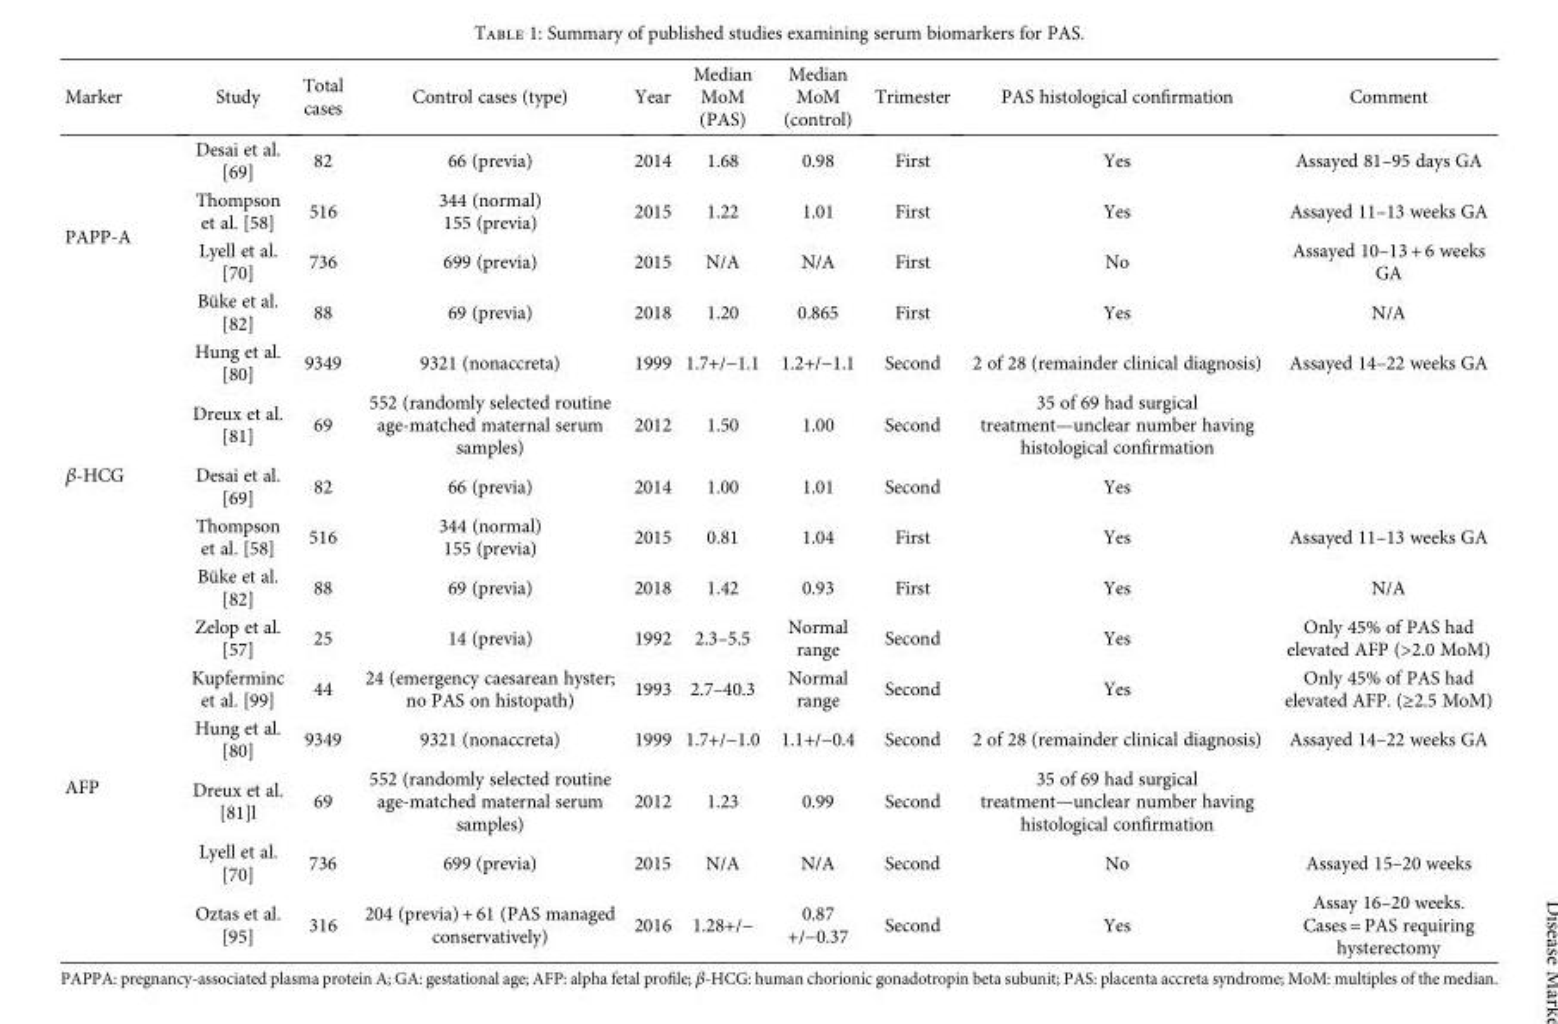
<table><thead><tr><td>Marker</td><td>Study</td><td>Total cases</td><td>Control cases (type)</td><td>Year</td><td>Median MoM (PAS)</td><td>Median MoM (control)</td><td>Trimester</td><td>PAS histological confirmation</td><td>Comment</td></tr></thead><tbody><tr><td rowspan="4">PAPP-A</td><td>Desai et al. [69]</td><td>82</td><td>66 (previa)</td><td>2014</td><td>1.68</td><td>0.98</td><td>First</td><td>Yes</td><td>Assayed 81–95 days GA</td></tr><tr><td>Thompson et al. [58]</td><td>516</td><td>344 (normal) 155 (previa)</td><td>2015</td><td>1.22</td><td>1.01</td><td>First</td><td>Yes</td><td>Assayed 11–13 weeks GA</td></tr><tr><td>Lyell et al. [70]</td><td>736</td><td>699 (previa)</td><td>2015</td><td>N/A</td><td>N/A</td><td>First</td><td>No</td><td>Assayed 10–13 + 6 weeks GA</td></tr><tr><td>Büke et al. [82]</td><td>88</td><td>69 (previa)</td><td>2018</td><td>1.20</td><td>0.865</td><td>First</td><td>Yes</td><td>N/A</td></tr><tr><td rowspan="5">β-HCG</td><td>Hung et al. [80]</td><td>9349</td><td>9321 (nonaccreta)</td><td>1999</td><td>1.7+/−1.1</td><td>1.2+/−1.1</td><td>Second</td><td>2 of 28 (remainder clinical diagnosis)</td><td>Assayed 14–22 weeks GA</td></tr><tr><td>Dreux et al. [81]</td><td>69</td><td>552 (randomly selected routine age-matched maternal serum samples)</td><td>2012</td><td>1.50</td><td>1.00</td><td>Second</td><td>35 of 69 had surgical treatment—unclear number having histological confirmation</td><td></td></tr><tr><td>Desai et al. [69]</td><td>82</td><td>66 (previa)</td><td>2014</td><td>1.00</td><td>1.01</td><td>Second</td><td>Yes</td><td></td></tr><tr><td>Thompson et al. [58]</td><td>516</td><td>344 (normal) 155 (previa)</td><td>2015</td><td>0.81</td><td>1.04</td><td>First</td><td>Yes</td><td>Assayed 11–13 weeks GA</td></tr><tr><td>Büke et al. [82]</td><td>88</td><td>69 (previa)</td><td>2018</td><td>1.42</td><td>0.93</td><td>First</td><td>Yes</td><td>N/A</td></tr><tr><td rowspan="6">AFP</td><td>Zelop et al. [57]</td><td>25</td><td>14 (previa)</td><td>1992</td><td>2.3–5.5</td><td>Normal range</td><td>Second</td><td>Yes</td><td>Only 45% of PAS had elevated AFP (&gt;2.0 MoM)</td></tr><tr><td>Kupferminc et al. [99]</td><td>44</td><td>24 (emergency caesarean hyster; no PAS on histopath)</td><td>1993</td><td>2.7–40.3</td><td>Normal range</td><td>Second</td><td>Yes</td><td>Only 45% of PAS had elevated AFP. (≥2.5 MoM)</td></tr><tr><td>Hung et al. [80]</td><td>9349</td><td>9321 (nonaccreta)</td><td>1999</td><td>1.7+/−1.0</td><td>1.1+/−0.4</td><td>Second</td><td>2 of 28 (remainder clinical diagnosis)</td><td>Assayed 14–22 weeks GA</td></tr><tr><td>Dreux et al. [81]l</td><td>69</td><td>552 (randomly selected routine age-matched maternal serum samples)</td><td>2012</td><td>1.23</td><td>0.99</td><td>Second</td><td>35 of 69 had surgical treatment—unclear number having histological confirmation</td><td></td></tr><tr><td>Lyell et al. [70]</td><td>736</td><td>699 (previa)</td><td>2015</td><td>N/A</td><td>N/A</td><td>Second</td><td>No</td><td>Assayed 15–20 weeks</td></tr><tr><td>Oztas et al. [95]</td><td>316</td><td>204 (previa) + 61 (PAS managed conservatively)</td><td>2016</td><td>1.28+/−</td><td>0.87 +/−0.37</td><td>Second</td><td>Yes</td><td>Assay 16–20 weeks. Cases = PAS requiring hysterectomy</td></tr></tbody></table>